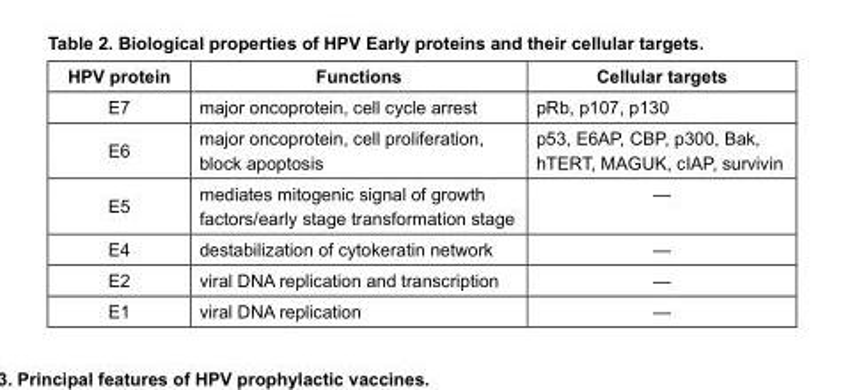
<table><thead><tr><td>HPV protein</td><td>Functions</td><td>Cellular targets</td></tr></thead><tbody><tr><td>E7</td><td>major oncoprotein, cell cycle arrest</td><td>pRb, p107, p130</td></tr><tr><td>E6</td><td>major oncoprotein, cell proliferation, block apoptosis</td><td>p53, E6AP, CBP, p300, Bak, hTERT, MAGUK, cIAP, survivin</td></tr><tr><td>E5</td><td>mediates mitogenic signal of growth factors/early stage transformation stage</td><td>—</td></tr><tr><td>E4</td><td>destabilization of cytokeratin network</td><td>—</td></tr><tr><td>E2</td><td>viral DNA replication and transcription</td><td>—</td></tr><tr><td>E1</td><td>viral DNA replication</td><td>—</td></tr></tbody></table>